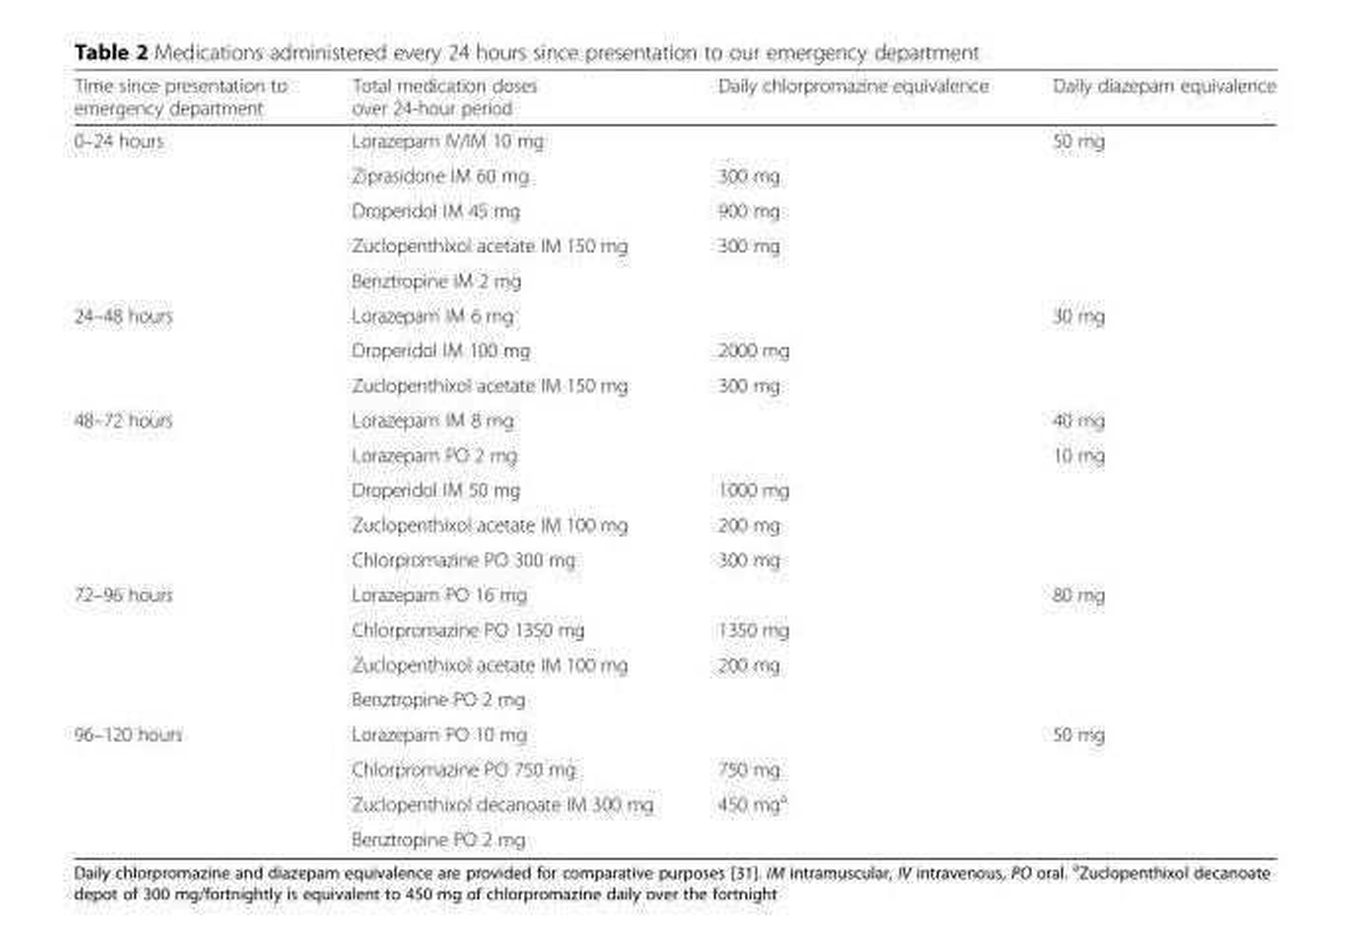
<table><thead><tr><td>Time since presentation to emergency department</td><td>Total medication doses over 24-hour period</td><td>Daily chlorpromazine equivalence</td><td>Daily diazepam equivalence</td></tr></thead><tbody><tr><td rowspan="5">0–24 hours</td><td>Lorazepam IV/IM 10 mg</td><td></td><td rowspan="5">50 mg</td></tr><tr><td>Ziprasidone IM 60 mg</td><td>300 mg</td></tr><tr><td>Droperidol IM 45 mg</td><td>900 mg</td></tr><tr><td>Zuclopenthixol acetate IM 150 mg</td><td rowspan="2">300 mg</td></tr><tr><td>Benztropine IM 2 mg</td></tr><tr><td rowspan="3">24–48 hours</td><td>Lorazepam IM 6 mg</td><td></td><td rowspan="3">30 mg</td></tr><tr><td>Droperidol IM 100 mg</td><td>2000 mg</td></tr><tr><td>Zuclopenthixol acetate IM 150 mg</td><td>300 mg</td></tr><tr><td rowspan="5">48–72 hours</td><td>Lorazepam IM 8 mg</td><td></td><td>40 mg</td></tr><tr><td>Lorazepam PO 2 mg</td><td></td><td rowspan="4">10 mg</td></tr><tr><td>Droperidol IM 50 mg</td><td>1000 mg</td></tr><tr><td>Zuclopenthixol acetate IM 100 mg</td><td>200 mg</td></tr><tr><td>Chlorpromazine PO 300 mg</td><td>300 mg</td></tr><tr><td rowspan="4">72–96 hours</td><td>Lorazepam PO 16 mg</td><td></td><td rowspan="4">80 mg</td></tr><tr><td>Chlorpromazine PO 1350 mg</td><td>1350 mg</td></tr><tr><td>Zuclopenthixol acetate IM 100 mg</td><td rowspan="2">200 mg</td></tr><tr><td>Benztropine PO 2 mg</td></tr><tr><td rowspan="4">96–120 hours</td><td>Lorazepam PO 10 mg</td><td></td><td rowspan="4">50 mg</td></tr><tr><td>Chlorpromazine PO 750 mg</td><td>750 mg</td></tr><tr><td>Zuclopenthixol decanoate IM 300 mg</td><td rowspan="2">450 mg<sup>a</sup></td></tr><tr><td>Benztropine PO 2 mg</td></tr></tbody></table>